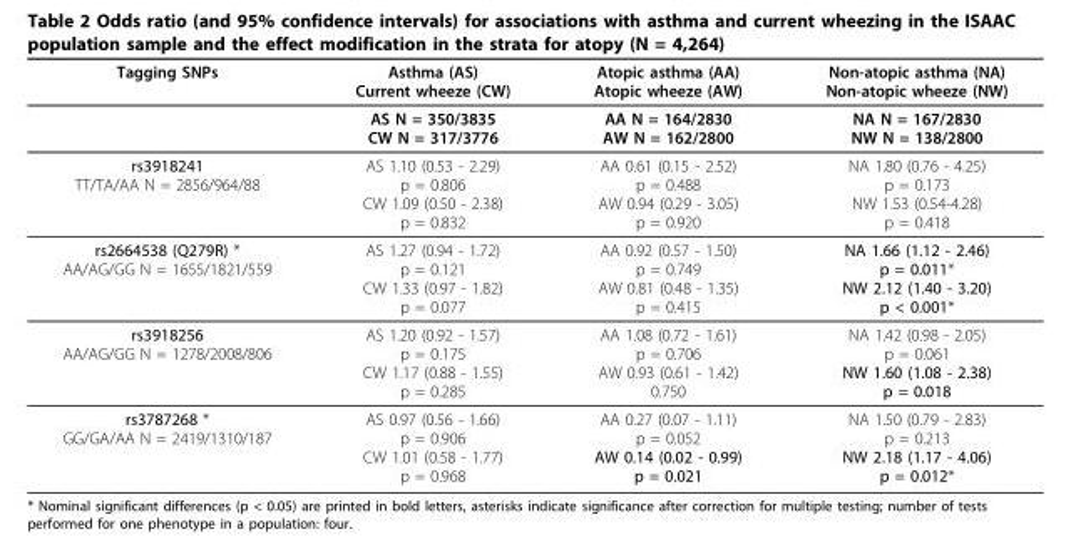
<table><thead><tr><td>Tagging SNPs</td><td>Asthma (AS) Current wheeze (CW)</td><td>Atopic asthma (AA) Atopic wheeze (AW)</td><td>Non-atopic asthma (NA) Non-atopic wheeze (NW)</td></tr></thead><tbody><tr><td></td><td>AS N = 350/3835 CW N = 317/3776</td><td>AA N = 164/2830 AW N = 162/2800</td><td>NA N = 167/2830 NW N = 138/2800</td></tr><tr><td>rs3918241 TT/TA/AA N = 2856/964/88</td><td>AS 1.10 (0.53 - 2.29) p = 0.806 CW 1.09 (0.50 - 2.38) p = 0.832</td><td>AA 0.61 (0.15 - 2.52) p = 0.488 AW 0.94 (0.29 - 3.05) p = 0.920</td><td>NA 1.80 (0.76 - 4.25) p = 0.173 NW 1.53 (0.54-4.28) p = 0.418</td></tr><tr><td>rs2664538 (Q279R) * AA/AG/GG N = 1655/1821/559</td><td>AS 1.27 (0.94 - 1.72) p = 0.121 CW 1.33 (0.97 - 1.82) p = 0.077</td><td>AA 0.92 (0.57 - 1.50) p = 0.749 AW 0.81 (0.48 - 1.35) p = 0.415</td><td>NA 1.66 (1.12 - 2.46) p = 0.011* NW 2.12 (1.40 - 3.20) p &lt; 0.001*</td></tr><tr><td>rs3918256 AA/AG/GG N = 1278/2008/806</td><td>AS 1.20 (0.92 - 1.57) p = 0.175 CW 1.17 (0.88 - 1.55) p = 0.285</td><td>AA 1.08 (0.72 - 1.61) p = 0.706 AW 0.93 (0.61 - 1.42) 0.750</td><td>NA 1.42 (0.98 - 2.05) p = 0.061 NW 1.60 (1.08 - 2.38) p = 0.018</td></tr><tr><td>rs3787268 * GG/GA/AA N = 2419/1310/187</td><td>AS 0.97 (0.56 - 1.66) p = 0.906 CW 1.01 (0.58 - 1.77) p = 0.968</td><td>AA 0.27 (0.07 - 1.11) p = 0.052 AW 0.14 (0.02 - 0.99) p = 0.021</td><td>NA 1.50 (0.79 - 2.83) p = 0.213 NW 2.18 (1.17 - 4.06) p = 0.012*</td></tr></tbody></table>